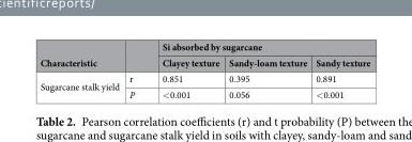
<table><thead><tr><td rowspan="2">Characteristic</td><td rowspan="2"></td><td colspan="3">Si absorbed by sugarcane</td></tr><tr><td>Clayey texture</td><td>Sandy-loam texture</td><td>Sandy texture</td></tr></thead><tbody><tr><td rowspan="2">Sugarcane stalk yield</td><td>r</td><td>0.851</td><td>0.395</td><td>0.891</td></tr><tr><td>P</td><td>&lt;0.001</td><td>0.056</td><td>&lt;0.001</td></tr></tbody></table>